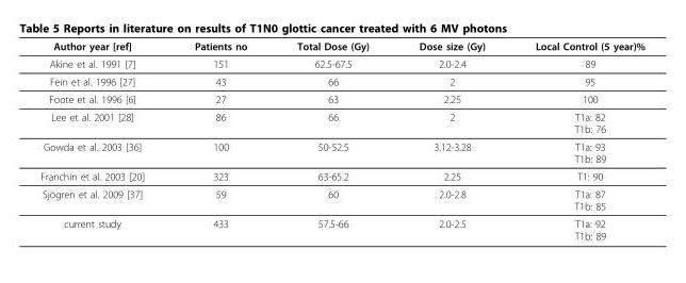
<table><thead><tr><td>Author year [ref]</td><td>Patients no</td><td>Total Dose (Gy)</td><td>Dose size (Gy)</td><td>Local Control (5 year)%</td></tr></thead><tbody><tr><td>Akine et al. 1991 [7]</td><td>151</td><td>62.5-67.5</td><td>2.0-2.4</td><td>89</td></tr><tr><td>Fein et al. 1996 [27]</td><td>43</td><td>66</td><td>2</td><td>95</td></tr><tr><td>Foote et al. 1996 [6]</td><td>27</td><td>63</td><td>2.25</td><td>100</td></tr><tr><td>Lee et al. 2001 [28]</td><td>86</td><td>66</td><td>2</td><td>T1a: 82 T1b: 76</td></tr><tr><td>Gowda et al. 2003 [36]</td><td>100</td><td>50-52.5</td><td>3.12-3.28</td><td>T1a: 93 T1b: 89</td></tr><tr><td>Franchin et al. 2003 [20]</td><td>323</td><td>63-65.2</td><td>2.25</td><td>T1: 90</td></tr><tr><td>Sjögren et al. 2009 [37]</td><td>59</td><td>60</td><td>2.0-2.8</td><td>T1a: 87 T1b: 85</td></tr><tr><td>current study</td><td>433</td><td>57.5-66</td><td>2.0-2.5</td><td>T1a: 92 T1b: 89</td></tr></tbody></table>